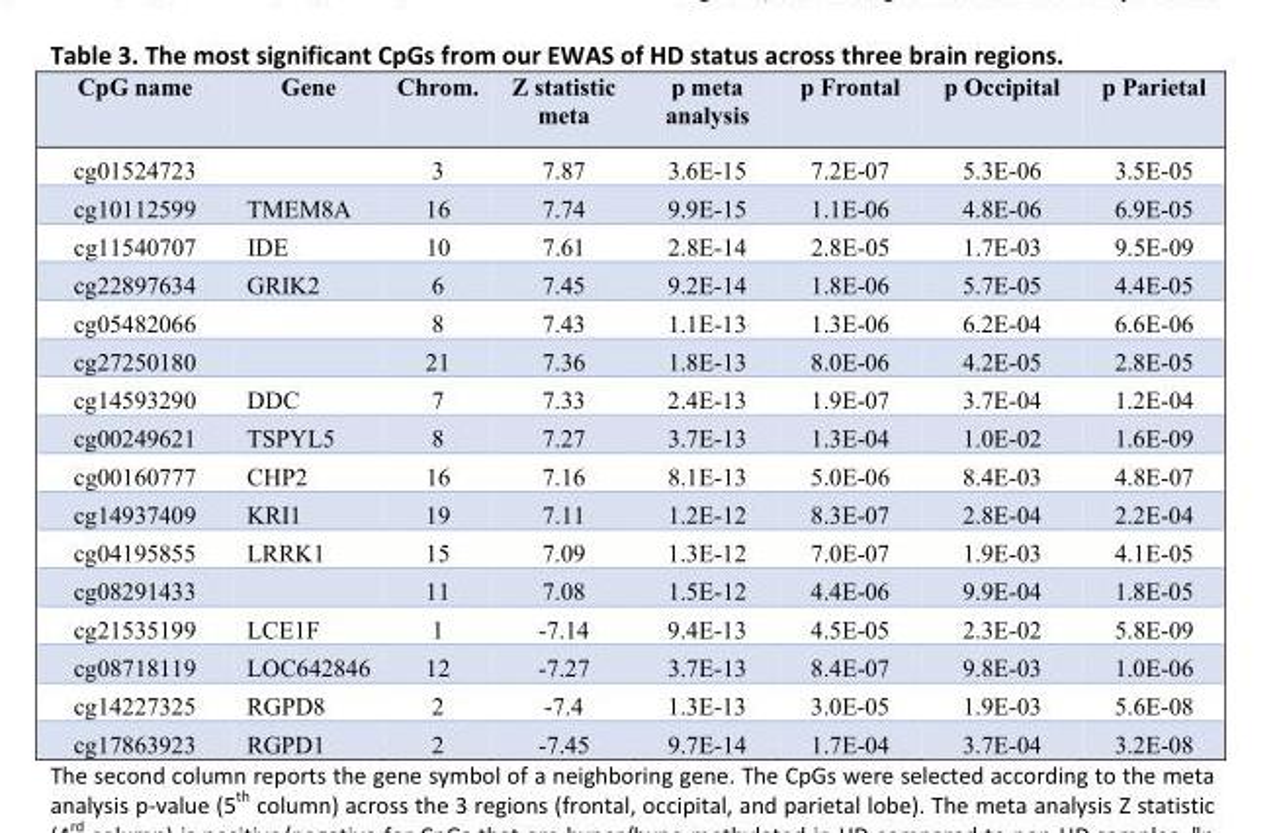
<table><thead><tr><td>CpG name</td><td>Gene</td><td>Chrom.</td><td>Z statistic meta</td><td>p meta analysis</td><td>p Frontal</td><td>p Occipital</td><td>p Parietal</td></tr></thead><tbody><tr><td>cg01524723</td><td></td><td>3</td><td>7.87</td><td>3.6E-15</td><td>7.2E-07</td><td>5.3E-06</td><td>3.5E-05</td></tr><tr><td>cg10112599</td><td>TMEM8A</td><td>16</td><td>7.74</td><td>9.9E-15</td><td>1.1E-06</td><td>4.8E-06</td><td>6.9E-05</td></tr><tr><td>cg11540707</td><td>IDE</td><td>10</td><td>7.61</td><td>2.8E-14</td><td>2.8E-05</td><td>1.7E-03</td><td>9.5E-09</td></tr><tr><td>cg22897634</td><td>GRIK2</td><td>6</td><td>7.45</td><td>9.2E-14</td><td>1.8E-06</td><td>5.7E-05</td><td>4.4E-05</td></tr><tr><td>cg05482066</td><td></td><td>8</td><td>7.43</td><td>1.1E-13</td><td>1.3E-06</td><td>6.2E-04</td><td>6.6E-06</td></tr><tr><td>cg27250180</td><td></td><td>21</td><td>7.36</td><td>1.8E-13</td><td>8.0E-06</td><td>4.2E-05</td><td>2.8E-05</td></tr><tr><td>cg14593290</td><td>DDC</td><td>7</td><td>7.33</td><td>2.4E-13</td><td>1.9E-07</td><td>3.7E-04</td><td>1.2E-04</td></tr><tr><td>cg00249621</td><td>TSPYL5</td><td>8</td><td>7.27</td><td>3.7E-13</td><td>1.3E-04</td><td>1.0E-02</td><td>1.6E-09</td></tr><tr><td>cg00160777</td><td>CHP2</td><td>16</td><td>7.16</td><td>8.1E-13</td><td>5.0E-06</td><td>8.4E-03</td><td>4.8E-07</td></tr><tr><td>cg14937409</td><td>KRI1</td><td>19</td><td>7.11</td><td>1.2E-12</td><td>8.3E-07</td><td>2.8E-04</td><td>2.2E-04</td></tr><tr><td>cg04195855</td><td>LRRK1</td><td>15</td><td>7.09</td><td>1.3E-12</td><td>7.0E-07</td><td>1.9E-03</td><td>4.1E-05</td></tr><tr><td>cg08291433</td><td></td><td>11</td><td>7.08</td><td>1.5E-12</td><td>4.4E-06</td><td>9.9E-04</td><td>1.8E-05</td></tr><tr><td>cg21535199</td><td>LCE1F</td><td>1</td><td>-7.14</td><td>9.4E-13</td><td>4.5E-05</td><td>2.3E-02</td><td>5.8E-09</td></tr><tr><td>cg08718119</td><td>LOC642846</td><td>12</td><td>-7.27</td><td>3.7E-13</td><td>8.4E-07</td><td>9.8E-03</td><td>1.0E-06</td></tr><tr><td>cg14227325</td><td>RGPD8</td><td>2</td><td>-7.4</td><td>1.3E-13</td><td>3.0E-05</td><td>1.9E-03</td><td>5.6E-08</td></tr><tr><td>cg17863923</td><td>RGPD1</td><td>2</td><td>-7.45</td><td>9.7E-14</td><td>1.7E-04</td><td>3.7E-04</td><td>3.2E-08</td></tr></tbody></table>